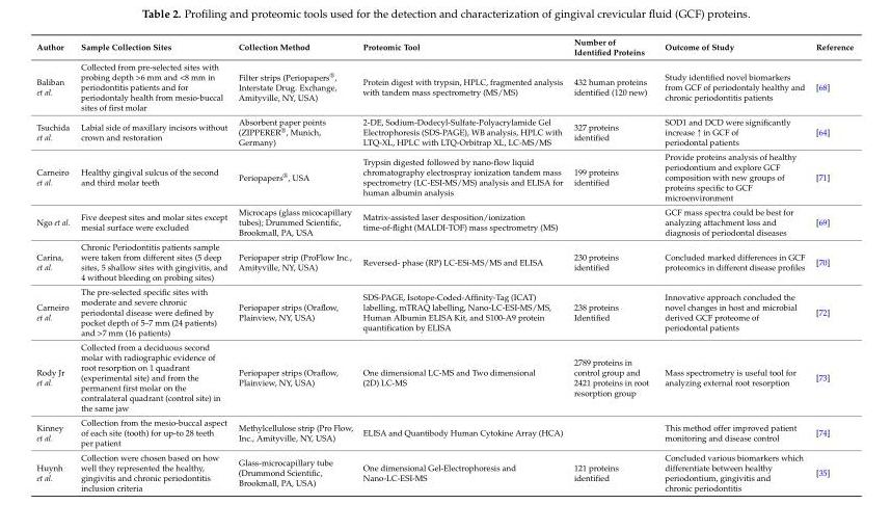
<table><thead><tr><td>Author</td><td>Sample Collection Sites</td><td>Collection Method</td><td>Proteomic Tool</td><td>Number of Identified Proteins</td><td>Outcome of Study</td><td>Reference</td></tr></thead><tbody><tr><td>Baliban et al.</td><td>Collected from pre-selected sites with probing depth &gt;6 mm and &lt;8 mm in periodontitis patients and for periodontaly health from mesio-buccal sites of first molar</td><td>Filter strips (Periopapers<sup>®</sup>, Interstate Drug. Exchange, Amityville, NY, USA)</td><td>Protein digest with trypsin, HPLC, fragmented analysis with tandem mass spectrometry (MS/MS)</td><td>432 human proteins identified (120 new)</td><td>Study identified novel biomarkers from GCF of periodontaly healthy and chronic periodontitis patients</td><td>[68]</td></tr><tr><td>Tsuchida et al.</td><td>Labial side of maxillary incisors without crown and restoration</td><td>Absorbent paper points (ZIPPERER<sup>®</sup>, Munich, Germany)</td><td>2-DE, Sodium-Dodecyl-Sulfate-Polyacrylamide Gel Electrophoresis (SDS-PAGE), WB analysis, HPLC with LTQ-XL, HPLC with LTQ-Orbitrap XL, LC-MS/MS</td><td>327 proteins identified</td><td>SOD1 and DCD were significantly increase ↑ in GCF of periodontal patients</td><td>[64]</td></tr><tr><td>Carneiro et al.</td><td>Healthy gingival sulcus of the second and third molar teeth</td><td>Periopapers<sup>®</sup>, USA</td><td>Trypsin digested followed by nano-flow liquid chromatography electrospray ionization tandem mass spectrometry (LC-ESI-MS/MS) analysis and ELISA for human albumin analysis</td><td>199 proteins identified</td><td>Provide proteins analysis of healthy periodontium and explore GCF composition with new groups of proteins specific to GCF microenvironment</td><td>[71]</td></tr><tr><td>Ngo et al.</td><td>Five deepest sites and molar sites except mesial surface were excluded</td><td>Microcaps (glass micocapillary tubes); Drummed Scientific, Brookmall, PA, USA</td><td>Matrix-assisted laser desposition/ionization time-of-flight (MALDI-TOF) mass spectrometry (MS)</td><td></td><td>GCF mass spectra could be best for analyzing attachment loss and diagnosis of periodontal diseases</td><td>[69]</td></tr><tr><td>Carina, et al.</td><td>Chronic Periodontitis patients sample were taken from different sites (5 deep sites, 5 shallow sites with gingivitis, and 4 without bleeding on probing sites)</td><td>Periopaper strip (ProFlow Inc., Amityville, NY, USA)</td><td>Reversed- phase (RP) LC-ESi-MS/MS and ELISA</td><td>230 proteins identified</td><td>Concluded marked differences in GCF proteomics in different disease profiles</td><td>[70]</td></tr><tr><td>Carneiro et al.</td><td>The pre-selected specific sites with moderate and severe chronic periodontal disease were defined by pocket depth of 5–7 mm (24 patients) and &gt;7 mm (16 patients)</td><td>Periopaper strips (Oraflow, Plainview, NY, USA)</td><td>SDS-PAGE, Isotope-Coded-Affinity-Tag (ICAT) labelling, mTRAQ labelling, Nano-LC-ESI-MS/MS, Human Albumin ELISA Kit, and S100-A9 protein quantification by ELISA</td><td>238 proteins Identified</td><td>Innovative approach concluded the novel changes in host and microbial derived GCF proteome of periodontal patients</td><td>[72]</td></tr><tr><td>Rody Jr et al.</td><td>Collected from a deciduous second molar with radiographic evidence of root resorption on 1 quadrant (experimental site) and from the permanent first molar on the contralateral quadrant (control site) in the same jaw</td><td>Periopaper strips (Oraflow, Plainview, NY, USA)</td><td>One dimensional LC-MS and Two dimensional (2D) LC-MS</td><td>2789 proteins in control group and 2421 proteins in root resorption group</td><td>Mass spectrometry is useful tool for analyzing external root resorption</td><td>[73]</td></tr><tr><td>Kinney et al.</td><td>Collection from the mesio-buccal aspect of each site (tooth) for up-to 28 teeth per patient</td><td>Methylcellulose strip (Pro Flow, Inc., Amityville, NY, USA)</td><td>ELISA and Quantibody Human Cytokine Array (HCA)</td><td></td><td>This method offer improved patient monitoring and disease control</td><td>[74]</td></tr><tr><td>Huynh et al.</td><td>Collection were chosen based on how well they represented the healthy, gingivitis and chronic periodontitis inclusion criteria</td><td>Glass-microcapillary tube (Drummond Scientific, Brookmall, PA, USA)</td><td>One dimensional Gel-Electrophoresis and Nano-LC-ESI-MS</td><td>121 proteins identified</td><td>Concluded various biomarkers which differentiate between healthy periodontium, gingivitis and chronic periodontitis</td><td>[35]</td></tr></tbody></table>